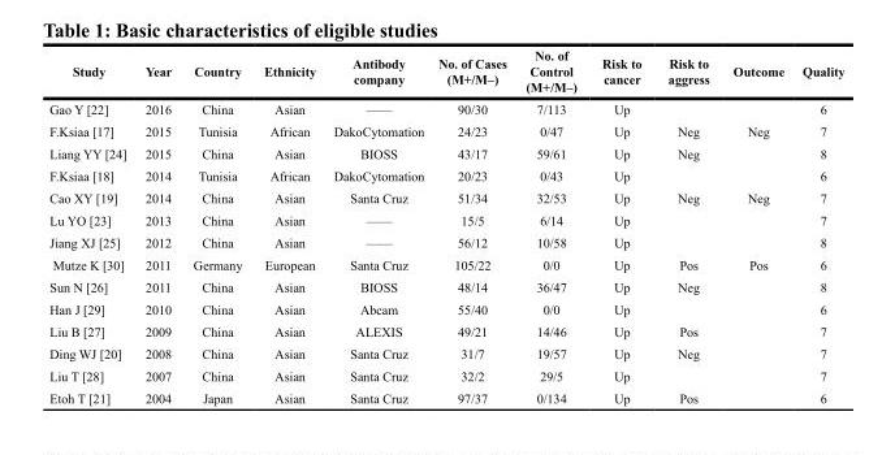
<table><thead><tr><td>Study</td><td>Year</td><td>Country</td><td>Ethnicity</td><td>Antibody company</td><td>No. of Cases (M+/M–)</td><td>No. of Control (M+/M–)</td><td>Risk to cancer</td><td>Risk to aggress</td><td>Outcome</td><td>Quality</td></tr></thead><tbody><tr><td>Gao Y [22]</td><td>2016</td><td>China</td><td>Asian</td><td>——</td><td>90/30</td><td>7/113</td><td>Up</td><td></td><td></td><td>6</td></tr><tr><td>F.Ksiaa [17]</td><td>2015</td><td>Tunisia</td><td>African</td><td>DakoCytomation</td><td>24/23</td><td>0/47</td><td>Up</td><td>Neg</td><td>Neg</td><td>7</td></tr><tr><td>Liang YY [24]</td><td>2015</td><td>China</td><td>Asian</td><td>BIOSS</td><td>43/17</td><td>59/61</td><td>Up</td><td>Neg</td><td></td><td>8</td></tr><tr><td>F.Ksiaa [18]</td><td>2014</td><td>Tunisia</td><td>African</td><td>DakoCytomation</td><td>20/23</td><td>0/43</td><td>Up</td><td></td><td></td><td>6</td></tr><tr><td>Cao XY [19]</td><td>2014</td><td>China</td><td>Asian</td><td>Santa Cruz</td><td>51/34</td><td>32/53</td><td>Up</td><td>Neg</td><td>Neg</td><td>7</td></tr><tr><td>Lu YO [23]</td><td>2013</td><td>China</td><td>Asian</td><td>——</td><td>15/5</td><td>6/14</td><td>Up</td><td></td><td></td><td>7</td></tr><tr><td>Jiang XJ [25]</td><td>2012</td><td>China</td><td>Asian</td><td>——</td><td>56/12</td><td>10/58</td><td>Up</td><td></td><td></td><td>8</td></tr><tr><td>Mutze K [30]</td><td>2011</td><td>Germany</td><td>European</td><td>Santa Cruz</td><td>105/22</td><td>0/0</td><td>Up</td><td>Pos</td><td>Pos</td><td>6</td></tr><tr><td>Sun N [26]</td><td>2011</td><td>China</td><td>Asian</td><td>BIOSS</td><td>48/14</td><td>36/47</td><td>Up</td><td>Neg</td><td></td><td>8</td></tr><tr><td>Han J [29]</td><td>2010</td><td>China</td><td>Asian</td><td>Abcam</td><td>55/40</td><td>0/0</td><td>Up</td><td></td><td></td><td>6</td></tr><tr><td>Liu B [27]</td><td>2009</td><td>China</td><td>Asian</td><td>ALEXIS</td><td>49/21</td><td>14/46</td><td>Up</td><td>Pos</td><td></td><td>7</td></tr><tr><td>Ding WJ [20]</td><td>2008</td><td>China</td><td>Asian</td><td>Santa Cruz</td><td>31/7</td><td>19/57</td><td>Up</td><td>Neg</td><td></td><td>7</td></tr><tr><td>Liu T [28]</td><td>2007</td><td>China</td><td>Asian</td><td>Santa Cruz</td><td>32/2</td><td>29/5</td><td>Up</td><td></td><td></td><td>7</td></tr><tr><td>Etoh T [21]</td><td>2004</td><td>Japan</td><td>Asian</td><td>Santa Cruz</td><td>97/37</td><td>0/134</td><td>Up</td><td>Pos</td><td></td><td>6</td></tr></tbody></table>